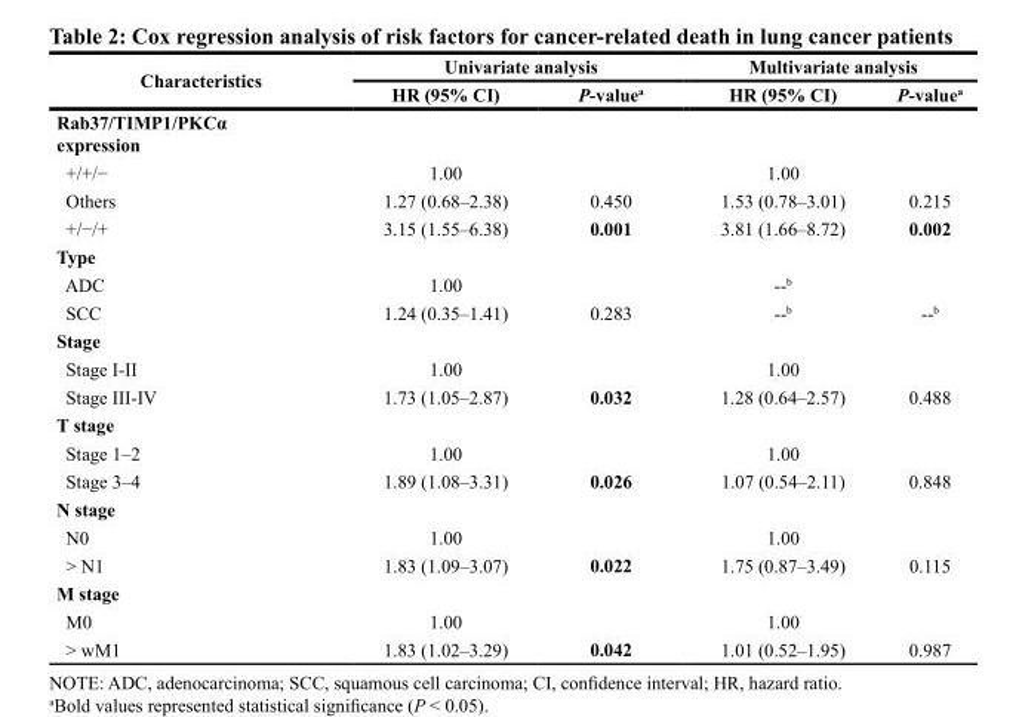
<table><thead><tr><td rowspan="2">Characteristics</td><td colspan="2">Univariate analysis</td><td colspan="2">Multivariate analysis</td></tr><tr><td>HR (95% CI)</td><td>P-value<sup>a</sup></td><td>HR (95% CI)</td><td>P-value<sup>a</sup></td></tr></thead><tbody><tr><td colspan="5">Rab37/TIMP1/PKCα expression</td></tr><tr><td>+/+/−</td><td>1.00</td><td></td><td>1.00</td><td></td></tr><tr><td>Others</td><td>1.27 (0.68–2.38)</td><td>0.450</td><td>1.53 (0.78–3.01)</td><td>0.215</td></tr><tr><td>+/−/+</td><td>3.15 (1.55–6.38)</td><td>0.001</td><td>3.81 (1.66–8.72)</td><td>0.002</td></tr><tr><td colspan="5">Type</td></tr><tr><td>ADC</td><td>1.00</td><td></td><td>--<sup>b</sup></td><td></td></tr><tr><td>SCC</td><td>1.24 (0.35–1.41)</td><td>0.283</td><td>--<sup>b</sup></td><td>--<sup>b</sup></td></tr><tr><td colspan="5">Stage</td></tr><tr><td>Stage I-II</td><td>1.00</td><td></td><td>1.00</td><td></td></tr><tr><td>Stage III-IV</td><td>1.73 (1.05–2.87)</td><td>0.032</td><td>1.28 (0.64–2.57)</td><td>0.488</td></tr><tr><td colspan="5">T stage</td></tr><tr><td>Stage 1–2</td><td>1.00</td><td></td><td>1.00</td><td></td></tr><tr><td>Stage 3–4</td><td>1.89 (1.08–3.31)</td><td>0.026</td><td>1.07 (0.54–2.11)</td><td>0.848</td></tr><tr><td colspan="5">N stage</td></tr><tr><td>N0</td><td>1.00</td><td></td><td>1.00</td><td></td></tr><tr><td>&gt; N1</td><td>1.83 (1.09–3.07)</td><td>0.022</td><td>1.75 (0.87–3.49)</td><td>0.115</td></tr><tr><td colspan="5">M stage</td></tr><tr><td>M0</td><td>1.00</td><td></td><td>1.00</td><td></td></tr><tr><td>&gt; wM1</td><td>1.83 (1.02–3.29)</td><td>0.042</td><td>1.01 (0.52–1.95)</td><td>0.987</td></tr></tbody></table>